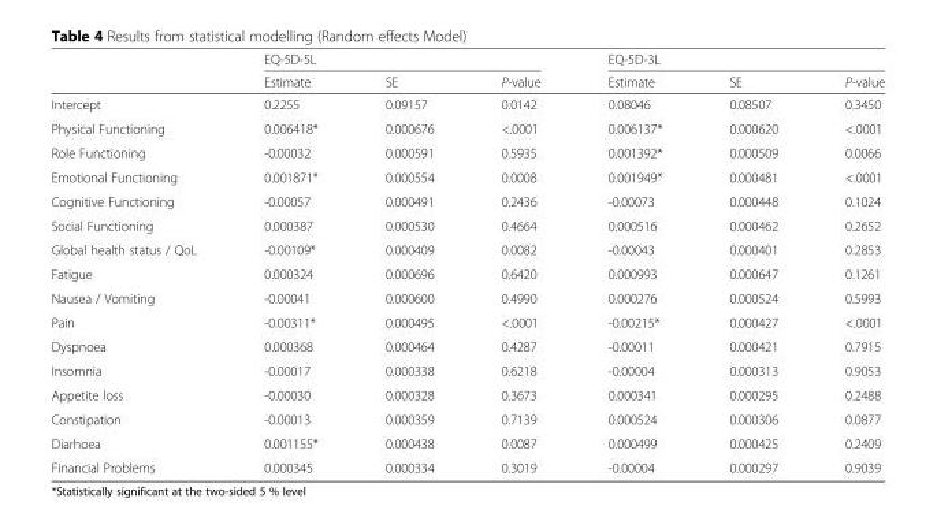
<table><thead><tr><td rowspan="2"></td><td colspan="3">EQ-5D-5L</td><td colspan="3">EQ-5D-3L</td></tr><tr><td>Estimate</td><td>SE</td><td>P-value</td><td>Estimate</td><td>SE</td><td>P-value</td></tr></thead><tbody><tr><td>Intercept</td><td>0.2255</td><td>0.09157</td><td>0.0142</td><td>0.08046</td><td>0.08507</td><td>0.3450</td></tr><tr><td>Physical Functioning</td><td>0.006418*</td><td>0.000676</td><td>&lt;.0001</td><td>0.006137*</td><td>0.000620</td><td>&lt;.0001</td></tr><tr><td>Role Functioning</td><td>-0.00032</td><td>0.000591</td><td>0.5935</td><td>0.001392*</td><td>0.000509</td><td>0.0066</td></tr><tr><td>Emotional Functioning</td><td>0.001871*</td><td>0.000554</td><td>0.0008</td><td>0.001949*</td><td>0.000481</td><td>&lt;.0001</td></tr><tr><td>Cognitive Functioning</td><td>-0.00057</td><td>0.000491</td><td>0.2436</td><td>-0.00073</td><td>0.000448</td><td>0.1024</td></tr><tr><td>Social Functioning</td><td>0.000387</td><td>0.000530</td><td>0.4664</td><td>0.000516</td><td>0.000462</td><td>0.2652</td></tr><tr><td>Global health status / QoL</td><td>-0.00109*</td><td>0.000409</td><td>0.0082</td><td>-0.00043</td><td>0.000401</td><td>0.2853</td></tr><tr><td>Fatigue</td><td>0.000324</td><td>0.000696</td><td>0.6420</td><td>0.000993</td><td>0.000647</td><td>0.1261</td></tr><tr><td>Nausea / Vomiting</td><td>-0.00041</td><td>0.000600</td><td>0.4990</td><td>0.000276</td><td>0.000524</td><td>0.5993</td></tr><tr><td>Pain</td><td>-0.00311*</td><td>0.000495</td><td>&lt;.0001</td><td>-0.00215*</td><td>0.000427</td><td>&lt;.0001</td></tr><tr><td>Dyspnoea</td><td>0.000368</td><td>0.000464</td><td>0.4287</td><td>-0.00011</td><td>0.000421</td><td>0.7915</td></tr><tr><td>Insomnia</td><td>-0.00017</td><td>0.000338</td><td>0.6218</td><td>-0.00004</td><td>0.000313</td><td>0.9053</td></tr><tr><td>Appetite loss</td><td>-0.00030</td><td>0.000328</td><td>0.3673</td><td>0.000341</td><td>0.000295</td><td>0.2488</td></tr><tr><td>Constipation</td><td>-0.00013</td><td>0.000359</td><td>0.7139</td><td>0.000524</td><td>0.000306</td><td>0.0877</td></tr><tr><td>Diarhoea</td><td>0.001155*</td><td>0.000438</td><td>0.0087</td><td>0.000499</td><td>0.000425</td><td>0.2409</td></tr><tr><td>Financial Problems</td><td>0.000345</td><td>0.000334</td><td>0.3019</td><td>-0.00004</td><td>0.000297</td><td>0.9039</td></tr></tbody></table>